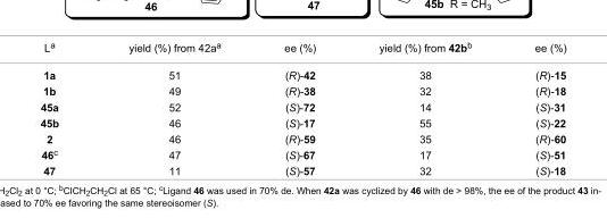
<table><tbody><tr><td>L<sup>a</sup></td><td>yield (%) from 42a<sup>a</sup></td><td>ee (%)</td><td>yield (%) from 42b<sup>b</sup></td><td>ee (%)</td></tr><tr><td>1a</td><td>51</td><td>(R)-42</td><td>38</td><td>(R)-15</td></tr><tr><td>1b</td><td>49</td><td>(R)-38</td><td>32</td><td>(R)-18</td></tr><tr><td>45a</td><td>52</td><td>(S)-72</td><td>14</td><td>(S)-31</td></tr><tr><td>45b</td><td>46</td><td>(S)-17</td><td>55</td><td>(S)-22</td></tr><tr><td>2</td><td>46</td><td>(R)-59</td><td>35</td><td>(R)-60</td></tr><tr><td>46<sup>c</sup></td><td>47</td><td>(S)-67</td><td>17</td><td>(S)-51</td></tr><tr><td>47</td><td>11</td><td>(S)-57</td><td>32</td><td>(S)-18</td></tr></tbody></table>